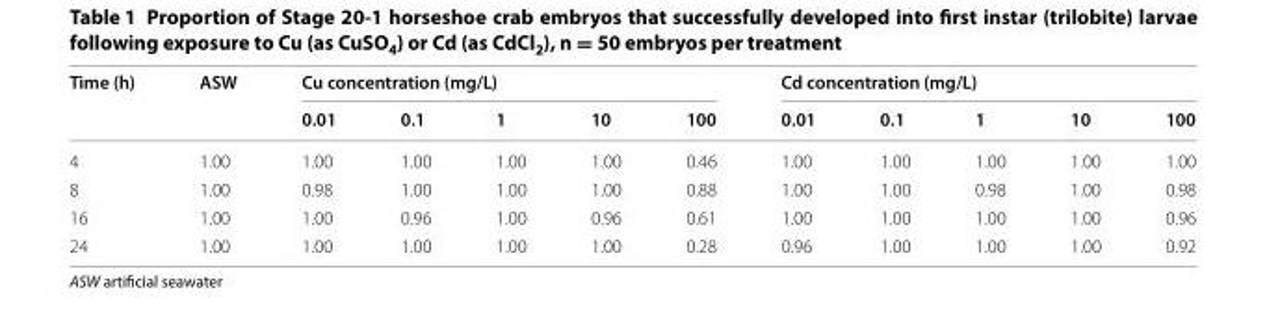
<table><thead><tr><td rowspan="2">Time (h)</td><td rowspan="2">ASW</td><td colspan="5">Cu concentration (mg/L)</td><td colspan="5">Cd concentration (mg/L)</td></tr><tr><td>0.01</td><td>0.1</td><td>1</td><td>10</td><td>100</td><td>0.01</td><td>0.1</td><td>1</td><td>10</td><td>100</td></tr></thead><tbody><tr><td>4</td><td>1.00</td><td>1.00</td><td>1.00</td><td>1.00</td><td>1.00</td><td>0.46</td><td>1.00</td><td>1.00</td><td>1.00</td><td>1.00</td><td>1.00</td></tr><tr><td>8</td><td>1.00</td><td>0.98</td><td>1.00</td><td>1.00</td><td>1.00</td><td>0.88</td><td>1.00</td><td>1.00</td><td>0.98</td><td>1.00</td><td>0.98</td></tr><tr><td>16</td><td>1.00</td><td>1.00</td><td>0.96</td><td>1.00</td><td>0.96</td><td>0.61</td><td>1.00</td><td>1.00</td><td>1.00</td><td>1.00</td><td>0.96</td></tr><tr><td>24</td><td>1.00</td><td>1.00</td><td>1.00</td><td>1.00</td><td>1.00</td><td>0.28</td><td>0.96</td><td>1.00</td><td>1.00</td><td>1.00</td><td>0.92</td></tr></tbody></table>